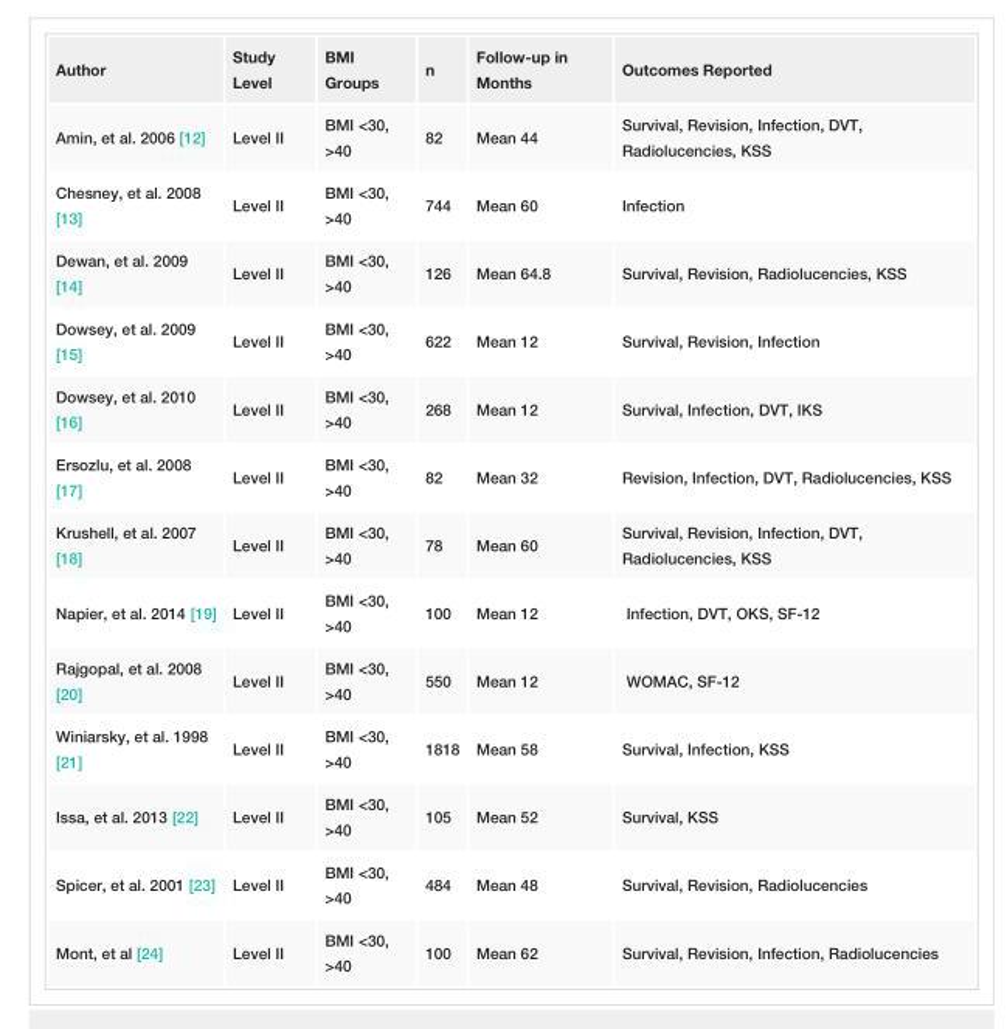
<table><tbody><tr><td>Author</td><td>Study Level</td><td>BMI Groups</td><td>n</td><td>Follow-up in Months</td><td>Outcomes Reported</td></tr><tr><td>Amin, et al. 2006 [12]</td><td>Level II</td><td>BMI &lt;30, &gt;40</td><td>82</td><td>Mean 44</td><td>Survival, Revision, Infection, DVT, Radiolucencies, KSS</td></tr><tr><td>Chesney, et al. 2008 [13]</td><td>Level II</td><td>BMI &lt;30, &gt;40</td><td>744</td><td>Mean 60</td><td>Infection</td></tr><tr><td>Dewan, et al. 2009 [14]</td><td>Level II</td><td>BMI &lt;30, &gt;40</td><td>126</td><td>Mean 64.8</td><td>Survival, Revision, Radiolucencies, KSS</td></tr><tr><td>Dowsey, et al. 2009 [15]</td><td>Level II</td><td>BMI &lt;30, &gt;40</td><td>622</td><td>Mean 12</td><td>Survival, Revision, Infection</td></tr><tr><td>Dowsey, et al. 2010 [16]</td><td>Level II</td><td>BMI &lt;30, &gt;40</td><td>268</td><td>Mean 12</td><td>Survival, Infection, DVT, IKS</td></tr><tr><td>Ersozlu, et al. 2008 [17]</td><td>Level II</td><td>BMI &lt;30, &gt;40</td><td>82</td><td>Mean 32</td><td>Revision, Infection, DVT, Radiolucencies, KSS</td></tr><tr><td>Krushell, et al. 2007 [18]</td><td>Level II</td><td>BMI &lt;30, &gt;40</td><td>78</td><td>Mean 60</td><td>Survival, Revision, Infection, DVT, Radiolucencies, KSS</td></tr><tr><td>Napier, et al. 2014 [19]</td><td>Level II</td><td>BMI &lt;30, &gt;40</td><td>100</td><td>Mean 12</td><td>Infection, DVT, OKS, SF-12</td></tr><tr><td>Rajgopal, et al. 2008 [20]</td><td>Level II</td><td>BMI &lt;30, &gt;40</td><td>550</td><td>Mean 12</td><td>WOMAC, SF-12</td></tr><tr><td>Winiarsky, et al. 1998 [21]</td><td>Level II</td><td>BMI &lt;30, &gt;40</td><td>1818</td><td>Mean 58</td><td>Survival, Infection, KSS</td></tr><tr><td>Issa, et al. 2013 [22]</td><td>Level II</td><td>BMI &lt;30, &gt;40</td><td>105</td><td>Mean 52</td><td>Survival, KSS</td></tr><tr><td>Spicer, et al. 2001 [23]</td><td>Level II</td><td>BMI &lt;30, &gt;40</td><td>484</td><td>Mean 48</td><td>Survival, Revision, Radiolucencies</td></tr><tr><td>Mont, et al [24]</td><td>Level II</td><td>BMI &lt;30, &gt;40</td><td>100</td><td>Mean 62</td><td>Survival, Revision, Infection, Radiolucencies</td></tr></tbody></table>